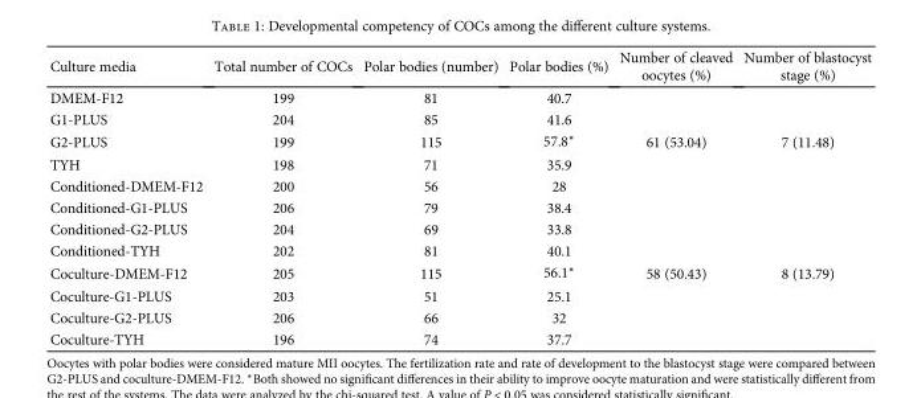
<table><thead><tr><td>Culture media</td><td>Total number of COCs</td><td>Polar bodies (number)</td><td>Polar bodies (%)</td><td>Number of cleaved oocytes (%)</td><td>Number of blastocyst stage (%)</td></tr></thead><tbody><tr><td>DMEM-F12</td><td>199</td><td>81</td><td>40.7</td><td></td><td></td></tr><tr><td>G1-PLUS</td><td>204</td><td>85</td><td>41.6</td><td></td><td></td></tr><tr><td>G2-PLUS</td><td>199</td><td>115</td><td>57.8∗</td><td>61 (53.04)</td><td>7 (11.48)</td></tr><tr><td>TYH</td><td>198</td><td>71</td><td>35.9</td><td></td><td></td></tr><tr><td>Conditioned-DMEM-F12</td><td>200</td><td>56</td><td>28</td><td></td><td></td></tr><tr><td>Conditioned-G1-PLUS</td><td>206</td><td>79</td><td>38.4</td><td></td><td></td></tr><tr><td>Conditioned-G2-PLUS</td><td>204</td><td>69</td><td>33.8</td><td></td><td></td></tr><tr><td>Conditioned-TYH</td><td>202</td><td>81</td><td>40.1</td><td></td><td></td></tr><tr><td>Coculture-DMEM-F12</td><td>205</td><td>115</td><td>56.1∗</td><td>58 (50.43)</td><td>8 (13.79)</td></tr><tr><td>Coculture-G1-PLUS</td><td>203</td><td>51</td><td>25.1</td><td></td><td></td></tr><tr><td>Coculture-G2-PLUS</td><td>206</td><td>66</td><td>32</td><td></td><td></td></tr><tr><td>Coculture-TYH</td><td>196</td><td>74</td><td>37.7</td><td></td><td></td></tr></tbody></table>